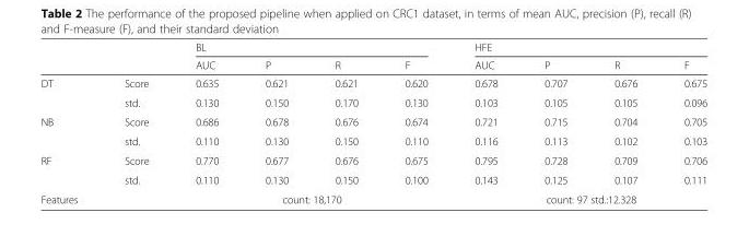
<table><thead><tr><td rowspan="2"></td><td rowspan="2"></td><td colspan="4">BL</td><td colspan="4">HFE</td></tr><tr><td>AUC</td><td>P</td><td>R</td><td>F</td><td>AUC</td><td>P</td><td>R</td><td>F</td></tr></thead><tbody><tr><td rowspan="2">DT</td><td>Score</td><td>0.635</td><td>0.621</td><td>0.621</td><td>0.620</td><td>0.678</td><td>0.707</td><td>0.676</td><td>0.675</td></tr><tr><td>std.</td><td>0.130</td><td>0.150</td><td>0.170</td><td>0.130</td><td>0.103</td><td>0.105</td><td>0.105</td><td>0.096</td></tr><tr><td rowspan="2">NB</td><td>Score</td><td>0.686</td><td>0.678</td><td>0.676</td><td>0.674</td><td>0.721</td><td>0.715</td><td>0.704</td><td>0.705</td></tr><tr><td>std.</td><td>0.110</td><td>0.130</td><td>0.150</td><td>0.110</td><td>0.116</td><td>0.113</td><td>0.102</td><td>0.103</td></tr><tr><td rowspan="2">RF</td><td>Score</td><td>0.770</td><td>0.677</td><td>0.676</td><td>0.675</td><td>0.795</td><td>0.728</td><td>0.709</td><td>0.706</td></tr><tr><td>std.</td><td>0.110</td><td>0.130</td><td>0.150</td><td>0.100</td><td>0.143</td><td>0.125</td><td>0.107</td><td>0.111</td></tr><tr><td>Features</td><td></td><td colspan="4">count: 18,170</td><td colspan="4">count: 97 std.:12.328</td></tr></tbody></table>